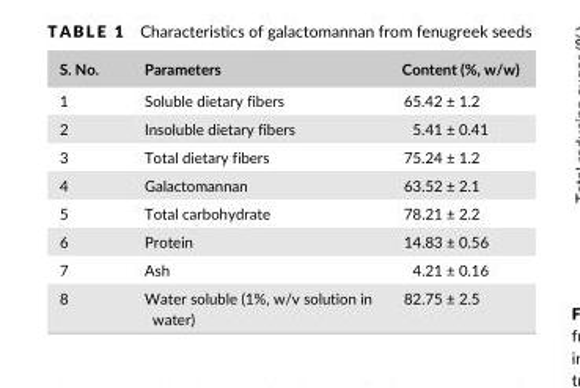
<table><thead><tr><td>S. No.</td><td>Parameters</td><td>Content (%, w/w)</td></tr></thead><tbody><tr><td>1</td><td>Soluble dietary fibers</td><td>65.42 ± 1.2</td></tr><tr><td>2</td><td>Insoluble dietary fibers</td><td>5.41 ± 0.41</td></tr><tr><td>3</td><td>Total dietary fibers</td><td>75.24 ± 1.2</td></tr><tr><td>4</td><td>Galactomannan</td><td>63.52 ± 2.1</td></tr><tr><td>5</td><td>Total carbohydrate</td><td>78.21 ± 2.2</td></tr><tr><td>6</td><td>Protein</td><td>14.83 ± 0.56</td></tr><tr><td>7</td><td>Ash</td><td>4.21 ± 0.16</td></tr><tr><td>8</td><td>Water soluble (1%, w/v solution in water)</td><td>82.75 ± 2.5</td></tr></tbody></table>